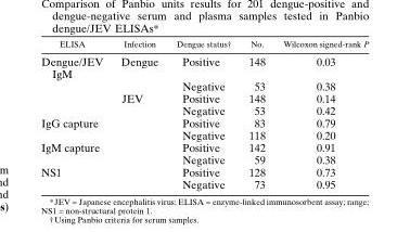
<table><thead><tr><td>ELISA</td><td>Infection</td><td>Dengue status†</td><td>No.</td><td>Wilcoxon signed-rank P</td></tr></thead><tbody><tr><td rowspan="4">Dengue/JEV IgM</td><td rowspan="2">Dengue</td><td>Positive</td><td>148</td><td>0.03</td></tr><tr><td>Negative</td><td>53</td><td>0.38</td></tr><tr><td rowspan="2">JEV</td><td>Positive</td><td>148</td><td>0.14</td></tr><tr><td>Negative</td><td>53</td><td>0.42</td></tr><tr><td rowspan="2">IgG capture</td><td></td><td>Positive</td><td>83</td><td>0.79</td></tr><tr><td></td><td>Negative</td><td>118</td><td>0.20</td></tr><tr><td rowspan="2">IgM capture</td><td></td><td>Positive</td><td>142</td><td>0.91</td></tr><tr><td></td><td>Negative</td><td>59</td><td>0.38</td></tr><tr><td rowspan="2">NS1</td><td></td><td>Positive</td><td>128</td><td>0.73</td></tr><tr><td></td><td>Negative</td><td>73</td><td>0.95</td></tr></tbody></table>